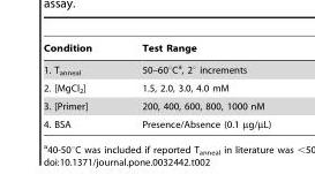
<table><thead><tr><td>Condition</td><td>Test Range</td></tr></thead><tbody><tr><td>1. T<sub>anneal</sub></td><td>50–60°C<sup>a</sup>, 2° increments</td></tr><tr><td>2. [MgCl<sub>2</sub>]</td><td>1.5, 2.0, 3.0, 4.0 mM</td></tr><tr><td>3. [Primer]</td><td>200, 400, 600, 800, 1000 nM</td></tr><tr><td>4. BSA</td><td>Presence/Absence (0.1 µg/µL)</td></tr></tbody></table>